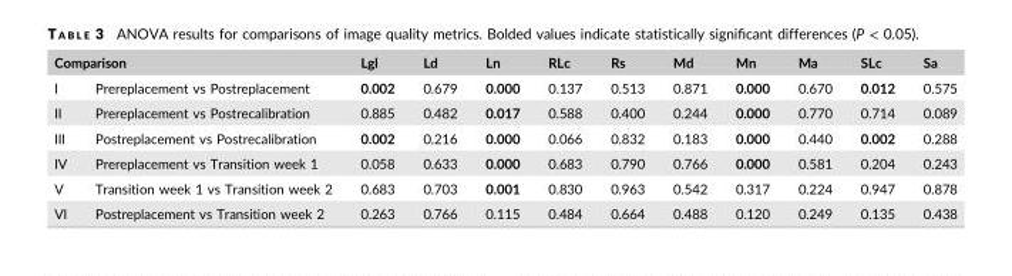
<table><thead><tr><td colspan="2">Comparison</td><td rowspan="2">Lgl 0.002</td><td rowspan="2">Ld 0.679</td><td rowspan="2">Ln 0.000</td><td rowspan="2">RLc 0.137</td><td rowspan="2">Rs 0.513</td><td rowspan="2">Md 0.871</td><td rowspan="2">Mn 0.000</td><td rowspan="2">Ma 0.670</td><td rowspan="2">SLc 0.012</td><td rowspan="2">Sa 0.575</td></tr><tr><td>I</td><td>Prereplacement vs Postreplacement</td></tr></thead><tbody><tr><td>II</td><td>Prereplacement vs Postrecalibration</td><td>0.885</td><td>0.482</td><td>0.017</td><td>0.588</td><td>0.400</td><td>0.244</td><td>0.000</td><td>0.770</td><td>0.714</td><td>0.089</td></tr><tr><td>III</td><td>Postreplacement vs Postrecalibration</td><td>0.002</td><td>0.216</td><td>0.000</td><td>0.066</td><td>0.832</td><td>0.183</td><td>0.000</td><td>0.440</td><td>0.002</td><td>0.288</td></tr><tr><td>IV</td><td>Prereplacement vs Transition week 1</td><td>0.058</td><td>0.633</td><td>0.000</td><td>0.683</td><td>0.790</td><td>0.766</td><td>0.000</td><td>0.581</td><td>0.204</td><td>0.243</td></tr><tr><td>V</td><td>Transition week 1 vs Transition week 2</td><td>0.683</td><td>0.703</td><td>0.001</td><td>0.830</td><td>0.963</td><td>0.542</td><td>0.317</td><td>0.224</td><td>0.947</td><td>0.878</td></tr><tr><td>VI</td><td>Postreplacement vs Transition week 2</td><td>0.263</td><td>0.766</td><td>0.115</td><td>0.484</td><td>0.664</td><td>0.488</td><td>0.120</td><td>0.249</td><td>0.135</td><td>0.438</td></tr></tbody></table>